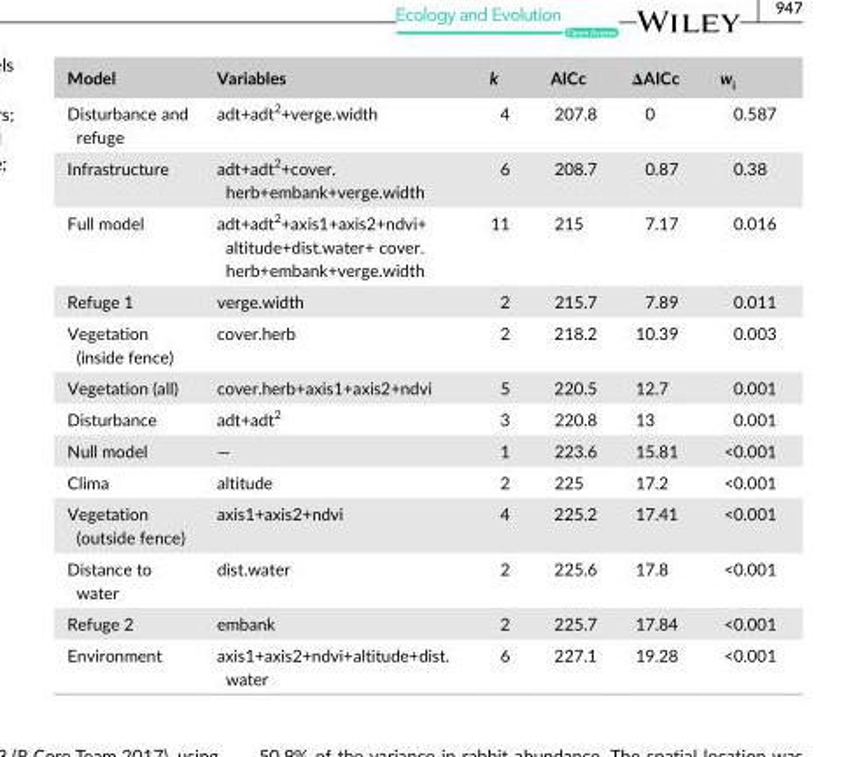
<table><thead><tr><td>Model</td><td>Variables</td><td>k</td><td>AICc</td><td>ΔAICc</td><td>w<sub>i</sub></td></tr></thead><tbody><tr><td>Disturbance and refuge</td><td>adt+adt<sup>2</sup>+verge.width</td><td>4</td><td>207.8</td><td>0</td><td>0.587</td></tr><tr><td>Infrastructure</td><td>adt+adt<sup>2</sup>+cover. herb+embank+verge.width</td><td>6</td><td>208.7</td><td>0.87</td><td>0.38</td></tr><tr><td>Full model</td><td>adt+adt<sup>2</sup>+axis1+axis2+ndvi+ altitude+dist.water+ cover. herb+embank+verge.width</td><td>11</td><td>215</td><td>7.17</td><td>0.016</td></tr><tr><td>Refuge 1</td><td>verge.width</td><td>2</td><td>215.7</td><td>7.89</td><td>0.011</td></tr><tr><td>Vegetation (inside fence)</td><td>cover.herb</td><td>2</td><td>218.2</td><td>10.39</td><td>0.003</td></tr><tr><td>Vegetation (all)</td><td>cover.herb+axis1+axis2+ndvi</td><td>5</td><td>220.5</td><td>12.7</td><td>0.001</td></tr><tr><td>Disturbance</td><td>adt+adt<sup>2</sup></td><td>3</td><td>220.8</td><td>13</td><td>0.001</td></tr><tr><td>Null model</td><td>—</td><td>1</td><td>223.6</td><td>15.81</td><td>&lt;0.001</td></tr><tr><td>Clima</td><td>altitude</td><td>2</td><td>225</td><td>17.2</td><td>&lt;0.001</td></tr><tr><td>Vegetation (outside fence)</td><td>axis1+axis2+ndvi</td><td>4</td><td>225.2</td><td>17.41</td><td>&lt;0.001</td></tr><tr><td>Distance to water</td><td>dist.water</td><td>2</td><td>225.6</td><td>17.8</td><td>&lt;0.001</td></tr><tr><td>Refuge 2</td><td>embank</td><td>2</td><td>225.7</td><td>17.84</td><td>&lt;0.001</td></tr><tr><td>Environment</td><td>axis1+axis2+ndvi+altitude+dist. water</td><td>6</td><td>227.1</td><td>19.28</td><td>&lt;0.001</td></tr></tbody></table>